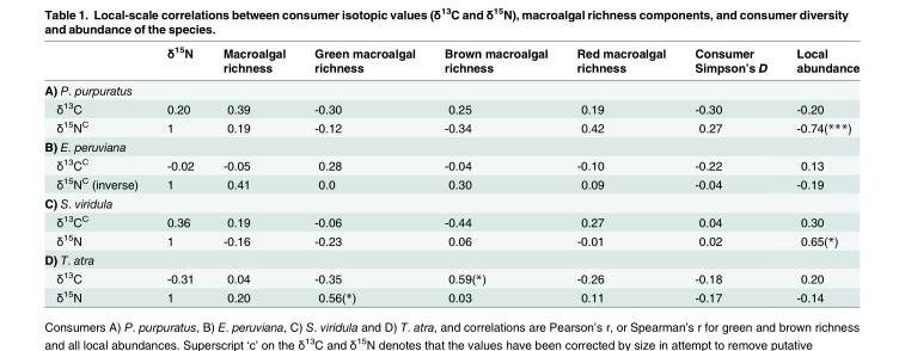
<table><thead><tr><td></td><td>δ<sup>15</sup>N</td><td>Macroalgal richness</td><td>Green macroalgal richness</td><td>Brown macroalgal richness</td><td>Red macroalgal richness</td><td>Consumer Simpson’s D</td><td>Local abundance</td></tr></thead><tbody><tr><td colspan="8">A) P. purpuratus</td></tr><tr><td>δ<sup>13</sup>C</td><td>0.20</td><td>0.39</td><td>-0.30</td><td>0.25</td><td>0.19</td><td>-0.30</td><td>-0.20</td></tr><tr><td>δ<sup>15</sup>N<sup>C</sup></td><td>1</td><td>0.19</td><td>-0.12</td><td>-0.34</td><td>0.42</td><td>0.27</td><td>-0.74(***)</td></tr><tr><td colspan="8">B) E. peruviana</td></tr><tr><td>δ<sup>13</sup>C<sup>C</sup></td><td>-0.02</td><td>-0.05</td><td>0.28</td><td>-0.04</td><td>-0.10</td><td>-0.22</td><td>0.13</td></tr><tr><td>δ<sup>15</sup>N<sup>C</sup> (inverse)</td><td>1</td><td>0.41</td><td>0.0</td><td>0.30</td><td>0.09</td><td>-0.04</td><td>-0.19</td></tr><tr><td colspan="8">C) S. viridula</td></tr><tr><td>δ<sup>13</sup>C<sup>C</sup></td><td>0.36</td><td>0.19</td><td>-0.06</td><td>-0.44</td><td>0.27</td><td>0.04</td><td>0.30</td></tr><tr><td>δ<sup>15</sup>N</td><td>1</td><td>-0.16</td><td>-0.23</td><td>0.06</td><td>-0.01</td><td>0.02</td><td>0.65(*)</td></tr><tr><td colspan="8">D) T. atra</td></tr><tr><td>δ<sup>13</sup>C</td><td>-0.31</td><td>0.04</td><td>-0.35</td><td>0.59(*)</td><td>-0.26</td><td>-0.18</td><td>0.20</td></tr><tr><td>δ<sup>15</sup>N</td><td>1</td><td>0.20</td><td>0.56(*)</td><td>0.03</td><td>0.11</td><td>-0.17</td><td>-0.14</td></tr></tbody></table>